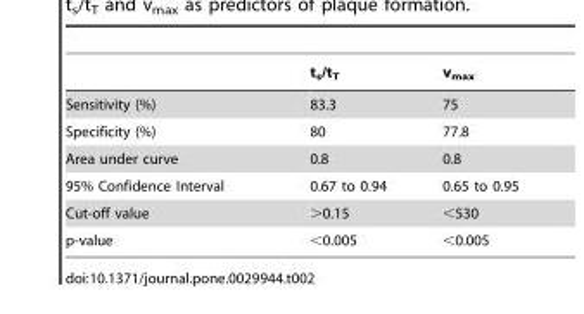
<table><thead><tr><td></td><td>t<sub>s</sub>/t<sub>T</sub></td><td>v<sub>max</sub></td></tr></thead><tbody><tr><td>Sensitivity (%)</td><td>83.3</td><td>75</td></tr><tr><td>Specificity (%)</td><td>80</td><td>77.8</td></tr><tr><td>Area under curve</td><td>0.8</td><td>0.8</td></tr><tr><td>95% Confidence Interval</td><td>0.67 to 0.94</td><td>0.65 to 0.95</td></tr><tr><td>Cut-off value</td><td>&gt;0.15</td><td>&lt;530</td></tr><tr><td>p-value</td><td>&lt;0.005</td><td>&lt;0.005</td></tr></tbody></table>